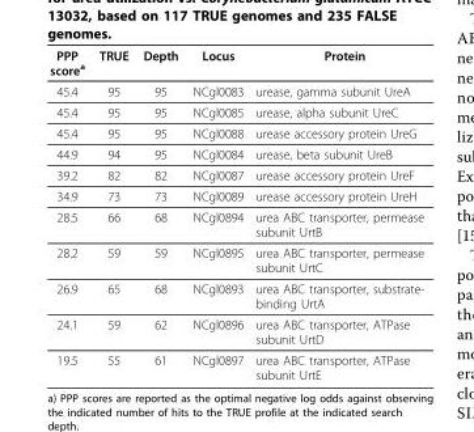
<table><thead><tr><td>PPP score<sup>a</sup></td><td>TRUE</td><td>Depth</td><td>Locus</td><td>Protein</td></tr></thead><tbody><tr><td>45.4</td><td>95</td><td>95</td><td>NCgl0083</td><td>urease, gamma subunit UreA</td></tr><tr><td>45.4</td><td>95</td><td>95</td><td>NCgl0085</td><td>urease, alpha subunit UreC</td></tr><tr><td>45.4</td><td>95</td><td>95</td><td>NCgl0088</td><td>urease accessory protein UreG</td></tr><tr><td>44.9</td><td>94</td><td>95</td><td>NCgl0084</td><td>urease, beta subunit UreB</td></tr><tr><td>39.2</td><td>82</td><td>82</td><td>NCgl0087</td><td>urease accessory protein UreF</td></tr><tr><td>34.9</td><td>73</td><td>73</td><td>NCgl0089</td><td>urease accessory protein UreH</td></tr><tr><td>28.5</td><td>66</td><td>68</td><td>NCgl0894</td><td>urea ABC transporter, permease subunit UrtB</td></tr><tr><td>28.2</td><td>59</td><td>59</td><td>NCgl0895</td><td>urea ABC transporter, permease subunit UrtC</td></tr><tr><td>26.9</td><td>65</td><td>68</td><td>NCgl0893</td><td>urea ABC transporter, substrate- binding UrtA</td></tr><tr><td>24.1</td><td>59</td><td>62</td><td>NCgl0896</td><td>urea ABC transporter, ATPase subunit UrtD</td></tr><tr><td>19.5</td><td>55</td><td>61</td><td>NCgl0897</td><td>urea ABC transporter, ATPase subunit UrtE</td></tr></tbody></table>